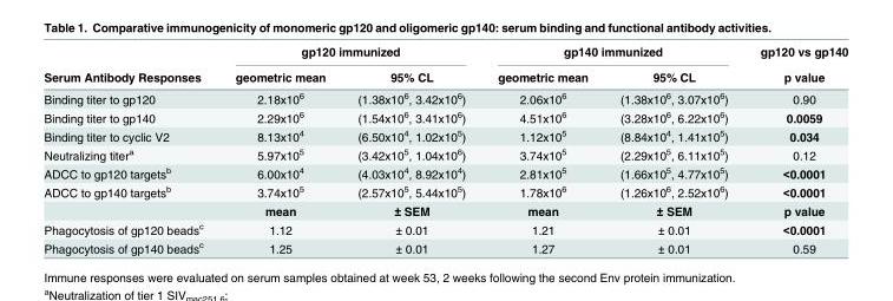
<table><thead><tr><td rowspan="2">Serum Antibody Responses</td><td colspan="2">gp120 immunized</td><td colspan="2">gp140 immunized</td><td rowspan="2">gp120 vs gp140 p value</td></tr><tr><td>geometric mean</td><td>95% CL</td><td>geometric mean</td><td>95% CL</td></tr></thead><tbody><tr><td>Binding titer to gp120</td><td>2.18x10<sup>6</sup></td><td>(1.38x10<sup>6</sup>, 3.42x10<sup>6</sup>)</td><td>2.06x10<sup>6</sup></td><td>(1.38x10<sup>6</sup>, 3.07x10<sup>6</sup>)</td><td>0.90</td></tr><tr><td>Binding titer to gp140</td><td>2.29x10<sup>6</sup></td><td>(1.54x10<sup>6</sup>, 3.41x10<sup>6</sup>)</td><td>4.51x10<sup>6</sup></td><td>(3.28x10<sup>6</sup>, 6.22x10<sup>6</sup>)</td><td>0.0059</td></tr><tr><td>Binding titer to cyclic V2</td><td>8.13x10<sup>4</sup></td><td>(6.50x10<sup>4</sup>, 1.02x10<sup>5</sup>)</td><td>1.12x10<sup>5</sup></td><td>(8.84x10<sup>4</sup>, 1.41x10<sup>5</sup>)</td><td>0.034</td></tr><tr><td>Neutralizing titer<sup>a</sup></td><td>5.97x10<sup>5</sup></td><td>(3.42x10<sup>5</sup>, 1.04x10<sup>6</sup>)</td><td>3.74x10<sup>5</sup></td><td>(2.29x10<sup>5</sup>, 6.11x10<sup>5</sup>)</td><td>0.12</td></tr><tr><td>ADCC to gp120 targets<sup>b</sup></td><td>6.00x10<sup>4</sup></td><td>(4.03x10<sup>4</sup>, 8.92x10<sup>4</sup>)</td><td>2.81x10<sup>5</sup></td><td>(1.66x10<sup>5</sup>, 4.77x10<sup>5</sup>)</td><td>&lt;0.0001</td></tr><tr><td rowspan="2">ADCC to gp140 targets<sup>b</sup></td><td>3.74x10<sup>5</sup></td><td>(2.57x10<sup>5</sup>, 5.44x10<sup>5</sup>)</td><td>1.78x10<sup>6</sup></td><td>(1.26x10<sup>6</sup>, 2.52x10<sup>6</sup>)</td><td>&lt;0.0001</td></tr><tr><td>mean</td><td>± SEM</td><td>mean</td><td>± SEM</td><td>p value</td></tr><tr><td>Phagocytosis of gp120 beads<sup>c</sup></td><td>1.12</td><td>± 0.01</td><td>1.21</td><td>± 0.01</td><td>&lt;0.0001</td></tr><tr><td>Phagocytosis of gp140 beads<sup>c</sup></td><td>1.25</td><td>± 0.01</td><td>1.27</td><td>± 0.01</td><td>0.59</td></tr></tbody></table>